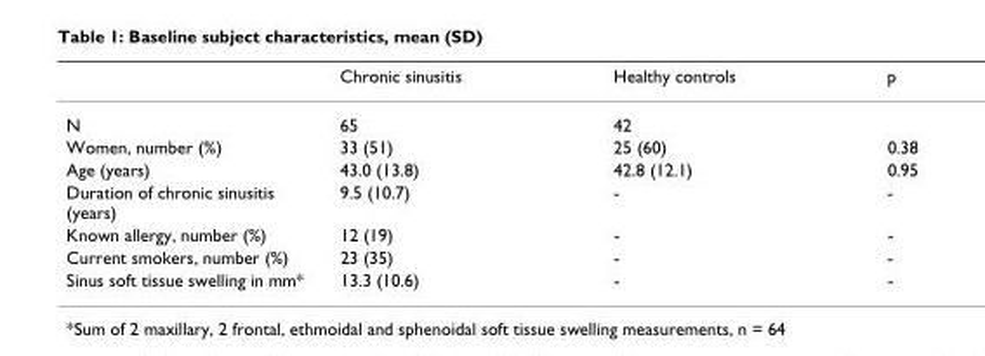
<table><thead><tr><td></td><td>Chronic sinusitis</td><td>Healthy controls</td><td>p</td></tr></thead><tbody><tr><td>N</td><td>65</td><td>42</td><td></td></tr><tr><td>Women, number (%)</td><td>33 (51)</td><td>25 (60)</td><td>0.38</td></tr><tr><td>Age (years)</td><td>43.0 (13.8)</td><td>42.8 (12.1)</td><td>0.95</td></tr><tr><td>Duration of chronic sinusitis (years)</td><td>9.5 (10.7)</td><td>-</td><td>-</td></tr><tr><td>Known allergy, number (%)</td><td>12 (19)</td><td>-</td><td>-</td></tr><tr><td>Current smokers, number (%)</td><td>23 (35)</td><td>-</td><td>-</td></tr><tr><td>Sinus soft tissue swelling in mm*</td><td>13.3 (10.6)</td><td>-</td><td>-</td></tr></tbody></table>